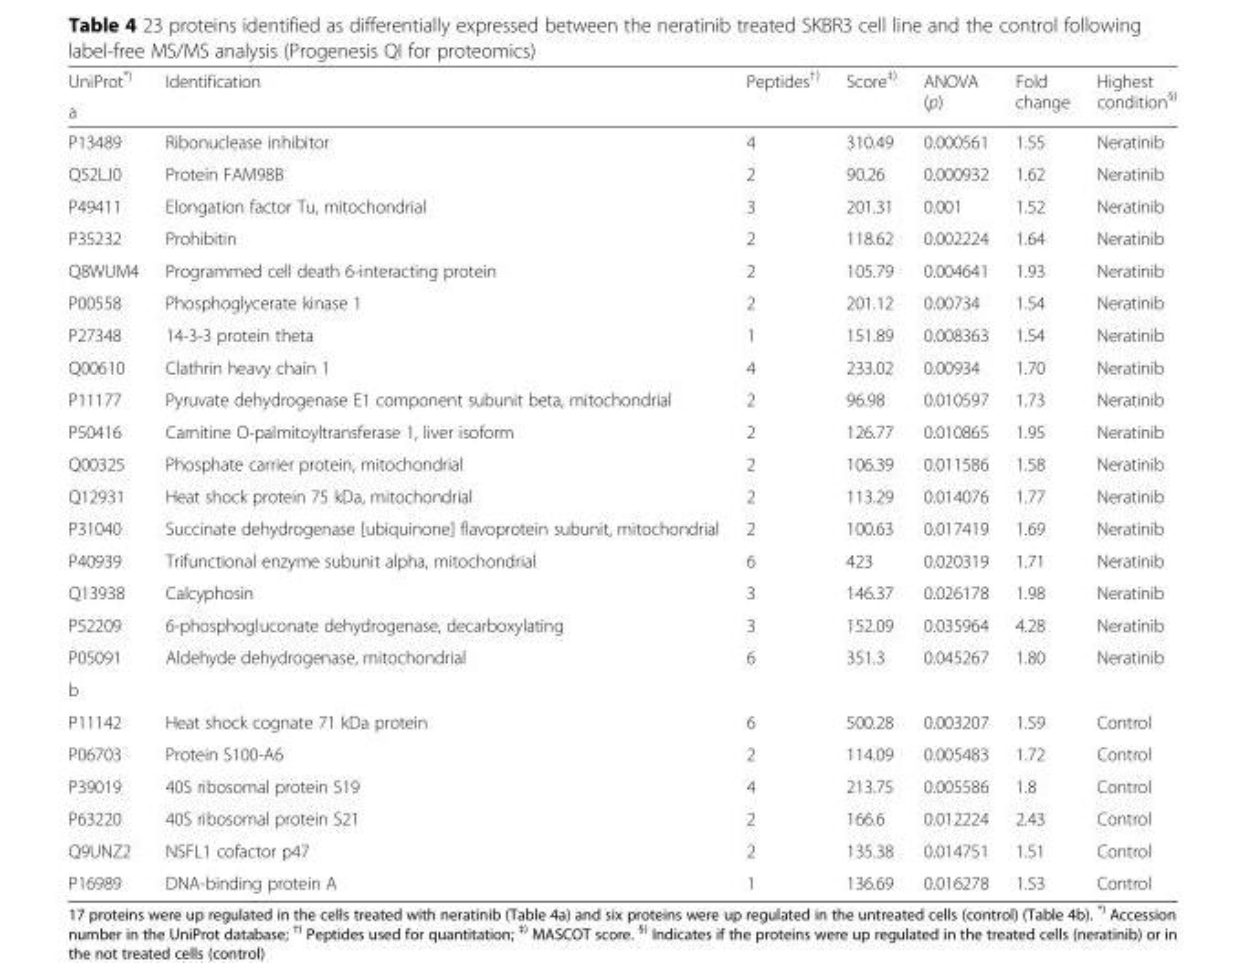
<table><thead><tr><td rowspan="2">UniProt<sup>*)</sup> a</td><td rowspan="2">Identification</td><td rowspan="2">Peptides<sup>†)</sup></td><td rowspan="2">Score<sup>‡)</sup></td><td rowspan="2">ANOVA (p)</td><td rowspan="2">Fold change</td><td rowspan="2">Highest condition<sup>§)</sup></td></tr><tr></tr></thead><tbody><tr><td>P13489</td><td>Ribonuclease inhibitor</td><td>4</td><td>310.49</td><td>0.000561</td><td>1.55</td><td>Neratinib</td></tr><tr><td>Q52LJ0</td><td>Protein FAM98B</td><td>2</td><td>90.26</td><td>0.000932</td><td>1.62</td><td>Neratinib</td></tr><tr><td>P49411</td><td>Elongation factor Tu, mitochondrial</td><td>3</td><td>201.31</td><td>0.001</td><td>1.52</td><td>Neratinib</td></tr><tr><td>P35232</td><td>Prohibitin</td><td>2</td><td>118.62</td><td>0.002224</td><td>1.64</td><td>Neratinib</td></tr><tr><td>Q8WUM4</td><td>Programmed cell death 6-interacting protein</td><td>2</td><td>105.79</td><td>0.004641</td><td>1.93</td><td>Neratinib</td></tr><tr><td>P00558</td><td>Phosphoglycerate kinase 1</td><td>2</td><td>201.12</td><td>0.00734</td><td>1.54</td><td>Neratinib</td></tr><tr><td>P27348</td><td>14-3-3 protein theta</td><td>1</td><td>151.89</td><td>0.008363</td><td>1.54</td><td>Neratinib</td></tr><tr><td>Q00610</td><td>Clathrin heavy chain 1</td><td>4</td><td>233.02</td><td>0.00934</td><td>1.70</td><td>Neratinib</td></tr><tr><td>P11177</td><td>Pyruvate dehydrogenase E1 component subunit beta, mitochondrial</td><td>2</td><td>96.98</td><td>0.010597</td><td>1.73</td><td>Neratinib</td></tr><tr><td>P50416</td><td>Carnitine O-palmitoyltransferase 1, liver isoform</td><td>2</td><td>126.77</td><td>0.010865</td><td>1.95</td><td>Neratinib</td></tr><tr><td>Q00325</td><td>Phosphate carrier protein, mitochondrial</td><td>2</td><td>106.39</td><td>0.011586</td><td>1.58</td><td>Neratinib</td></tr><tr><td>Q12931</td><td>Heat shock protein 75 kDa, mitochondrial</td><td>2</td><td>113.29</td><td>0.014076</td><td>1.77</td><td>Neratinib</td></tr><tr><td>P31040</td><td>Succinate dehydrogenase [ubiquinone] flavoprotein subunit, mitochondrial</td><td>2</td><td>100.63</td><td>0.017419</td><td>1.69</td><td>Neratinib</td></tr><tr><td>P40939</td><td>Trifunctional enzyme subunit alpha, mitochondrial</td><td>6</td><td>423</td><td>0.020319</td><td>1.71</td><td>Neratinib</td></tr><tr><td>Q13938</td><td>Calcyphosin</td><td>3</td><td>146.37</td><td>0.026178</td><td>1.98</td><td>Neratinib</td></tr><tr><td>P52209</td><td>6-phosphogluconate dehydrogenase, decarboxylating</td><td>3</td><td>152.09</td><td>0.035964</td><td>4.28</td><td>Neratinib</td></tr><tr><td>P05091</td><td>Aldehyde dehydrogenase, mitochondrial</td><td>6</td><td>351.3</td><td>0.045267</td><td>1.80</td><td>Neratinib</td></tr><tr><td colspan="7">b</td></tr><tr><td>P11142</td><td>Heat shock cognate 71 kDa protein</td><td>6</td><td>500.28</td><td>0.003207</td><td>1.59</td><td>Control</td></tr><tr><td>P06703</td><td>Protein S100-A6</td><td>2</td><td>114.09</td><td>0.005483</td><td>1.72</td><td>Control</td></tr><tr><td>P39019</td><td>40S ribosomal protein S19</td><td>4</td><td>213.75</td><td>0.005586</td><td>1.8</td><td>Control</td></tr><tr><td>P63220</td><td>40S ribosomal protein S21</td><td>2</td><td>166.6</td><td>0.012224</td><td>2.43</td><td>Control</td></tr><tr><td>Q9UNZ2</td><td>NSFL1 cofactor p47</td><td>2</td><td>135.38</td><td>0.014751</td><td>1.51</td><td>Control</td></tr><tr><td>P16989</td><td>DNA-binding protein A</td><td>1</td><td>136.69</td><td>0.016278</td><td>1.53</td><td>Control</td></tr></tbody></table>